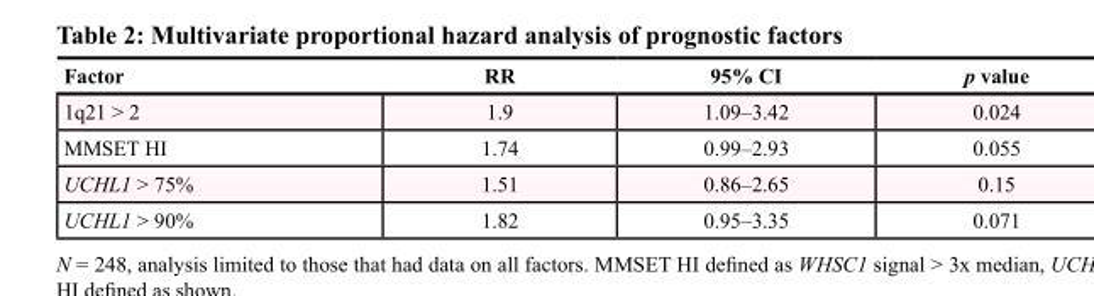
<table><thead><tr><td>Factor</td><td>RR</td><td>95% CI</td><td>p value</td></tr></thead><tbody><tr><td>1q21 &gt; 2</td><td>1.9</td><td>1.09–3.42</td><td>0.024</td></tr><tr><td>MMSET HI</td><td>1.74</td><td>0.99–2.93</td><td>0.055</td></tr><tr><td>UCHL1 &gt; 75%</td><td>1.51</td><td>0.86–2.65</td><td>0.15</td></tr><tr><td>UCHL1 &gt; 90%</td><td>1.82</td><td>0.95–3.35</td><td>0.071</td></tr></tbody></table>